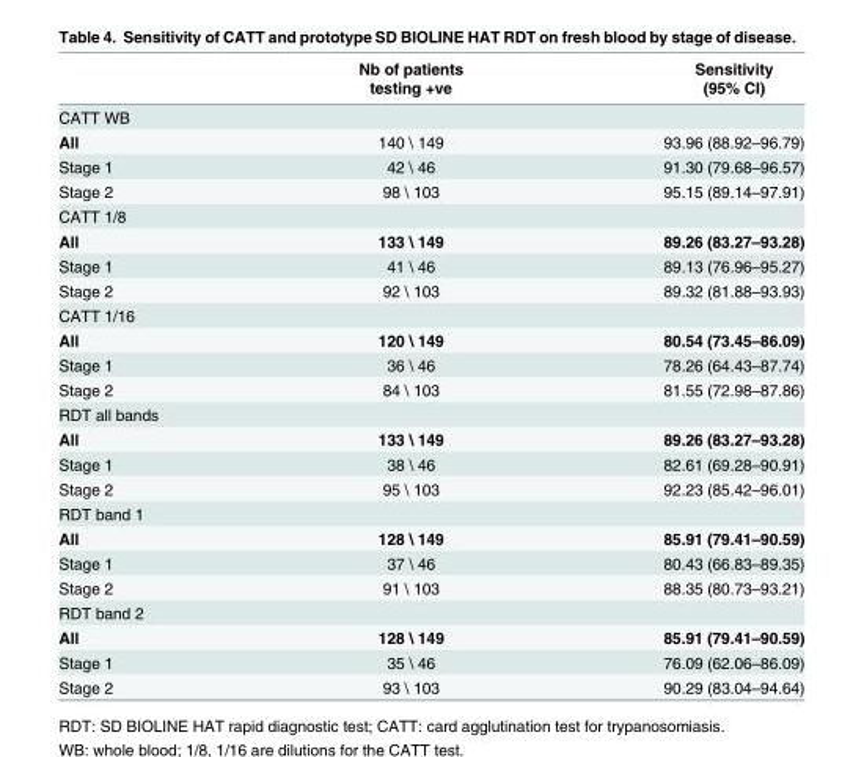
<table><thead><tr><td rowspan="2"></td><td rowspan="2">Nb of patients testing +ve</td><td rowspan="2">Sensitivity (95% CI)</td></tr><tr></tr></thead><tbody><tr><td colspan="3">CATT WB</td></tr><tr><td>All</td><td>140 \ 149</td><td>93.96 (88.92–96.79)</td></tr><tr><td>Stage 1</td><td>42 \ 46</td><td>91.30 (79.68–96.57)</td></tr><tr><td>Stage 2</td><td>98 \ 103</td><td>95.15 (89.14–97.91)</td></tr><tr><td colspan="3">CATT 1/8</td></tr><tr><td>All</td><td>133 \ 149</td><td>89.26 (83.27–93.28)</td></tr><tr><td>Stage 1</td><td>41 \ 46</td><td>89.13 (76.96–95.27)</td></tr><tr><td>Stage 2</td><td>92 \ 103</td><td>89.32 (81.88–93.93)</td></tr><tr><td colspan="3">CATT 1/16</td></tr><tr><td>All</td><td>120 \ 149</td><td>80.54 (73.45–86.09)</td></tr><tr><td>Stage 1</td><td>36 \ 46</td><td>78.26 (64.43–87.74)</td></tr><tr><td>Stage 2</td><td>84 \ 103</td><td>81.55 (72.98–87.86)</td></tr><tr><td colspan="3">RDT all bands</td></tr><tr><td>All</td><td>133 \ 149</td><td>89.26 (83.27–93.28)</td></tr><tr><td>Stage 1</td><td>38 \ 46</td><td>82.61 (69.28–90.91)</td></tr><tr><td>Stage 2</td><td>95 \ 103</td><td>92.23 (85.42–96.01)</td></tr><tr><td colspan="3">RDT band 1</td></tr><tr><td>All</td><td>128 \ 149</td><td>85.91 (79.41–90.59)</td></tr><tr><td>Stage 1</td><td>37 \ 46</td><td>80.43 (66.83–89.35)</td></tr><tr><td>Stage 2</td><td>91 \ 103</td><td>88.35 (80.73–93.21)</td></tr><tr><td colspan="3">RDT band 2</td></tr><tr><td>All</td><td>128 \ 149</td><td>85.91 (79.41–90.59)</td></tr><tr><td>Stage 1</td><td>35 \ 46</td><td>76.09 (62.06–86.09)</td></tr><tr><td>Stage 2</td><td>93 \ 103</td><td>90.29 (83.04–94.64)</td></tr></tbody></table>